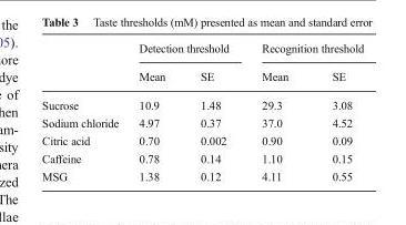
<table><thead><tr><td rowspan="2"></td><td colspan="2">Detection threshold</td><td colspan="2">Recognition threshold</td></tr><tr><td>Mean</td><td>SE</td><td>Mean</td><td>SE</td></tr></thead><tbody><tr><td>Sucrose</td><td>10.9</td><td>1.48</td><td>29.3</td><td>3.08</td></tr><tr><td>Sodium chloride</td><td>4.97</td><td>0.37</td><td>37.0</td><td>4.52</td></tr><tr><td>Citric acid</td><td>0.70</td><td>0.002</td><td>0.90</td><td>0.09</td></tr><tr><td>Caffeine</td><td>0.78</td><td>0.14</td><td>1.10</td><td>0.15</td></tr><tr><td>MSG</td><td>1.38</td><td>0.12</td><td>4.11</td><td>0.55</td></tr></tbody></table>